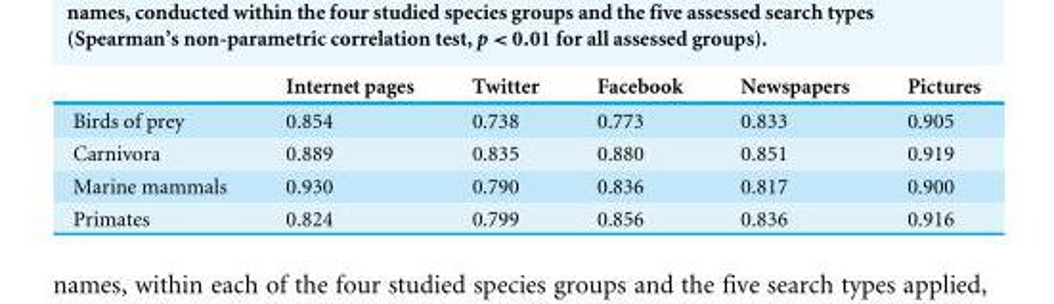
<table><thead><tr><td></td><td>Internet pages</td><td>Twitter</td><td>Facebook</td><td>Newspapers</td><td>Pictures</td></tr></thead><tbody><tr><td>Birds of prey</td><td>0.854</td><td>0.738</td><td>0.773</td><td>0.833</td><td>0.905</td></tr><tr><td>Carnivora</td><td>0.889</td><td>0.835</td><td>0.880</td><td>0.851</td><td>0.919</td></tr><tr><td>Marine mammals</td><td>0.930</td><td>0.790</td><td>0.836</td><td>0.817</td><td>0.900</td></tr><tr><td>Primates</td><td>0.824</td><td>0.799</td><td>0.856</td><td>0.836</td><td>0.916</td></tr></tbody></table>